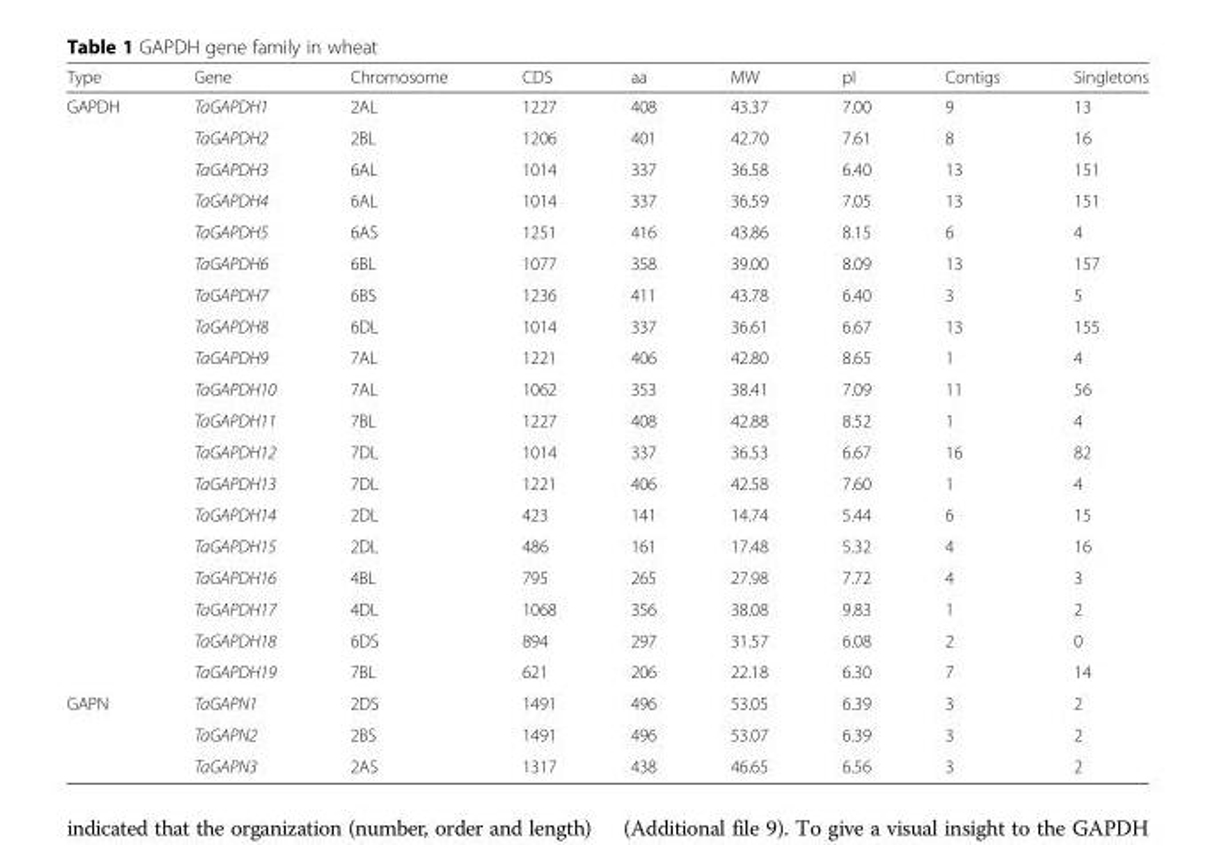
<table><thead><tr><td>Type</td><td>Gene</td><td>Chromosome</td><td>CDS</td><td>aa</td><td>MW</td><td>pI</td><td>Contigs</td><td>Singletons</td></tr></thead><tbody><tr><td rowspan="19">GAPDH</td><td>TaGAPDH1</td><td>2AL</td><td>1227</td><td>408</td><td>43.37</td><td>7.00</td><td>9</td><td>13</td></tr><tr><td>TaGAPDH2</td><td>2BL</td><td>1206</td><td>401</td><td>42.70</td><td>7.61</td><td>8</td><td>16</td></tr><tr><td>TaGAPDH3</td><td>6AL</td><td>1014</td><td>337</td><td>36.58</td><td>6.40</td><td>13</td><td>151</td></tr><tr><td>TaGAPDH4</td><td>6AL</td><td>1014</td><td>337</td><td>36.59</td><td>7.05</td><td>13</td><td>151</td></tr><tr><td>TaGAPDH5</td><td>6AS</td><td>1251</td><td>416</td><td>43.86</td><td>8.15</td><td>6</td><td>4</td></tr><tr><td>TaGAPDH6</td><td>6BL</td><td>1077</td><td>358</td><td>39.00</td><td>8.09</td><td>13</td><td>157</td></tr><tr><td>TaGAPDH7</td><td>6BS</td><td>1236</td><td>411</td><td>43.78</td><td>6.40</td><td>3</td><td>5</td></tr><tr><td>TaGAPDH8</td><td>6DL</td><td>1014</td><td>337</td><td>36.61</td><td>6.67</td><td>13</td><td>155</td></tr><tr><td>TaGAPDH9</td><td>7AL</td><td>1221</td><td>406</td><td>42.80</td><td>8.65</td><td>1</td><td>4</td></tr><tr><td>TaGAPDH10</td><td>7AL</td><td>1062</td><td>353</td><td>38.41</td><td>7.09</td><td>11</td><td>56</td></tr><tr><td>TaGAPDH11</td><td>7BL</td><td>1227</td><td>408</td><td>42.88</td><td>8.52</td><td>1</td><td>4</td></tr><tr><td>TaGAPDH12</td><td>7DL</td><td>1014</td><td>337</td><td>36.53</td><td>6.67</td><td>16</td><td>82</td></tr><tr><td>TaGAPDH13</td><td>7DL</td><td>1221</td><td>406</td><td>42.58</td><td>7.60</td><td>1</td><td>4</td></tr><tr><td>TaGAPDH14</td><td>2DL</td><td>423</td><td>141</td><td>14.74</td><td>5.44</td><td>6</td><td>15</td></tr><tr><td>TaGAPDH15</td><td>2DL</td><td>486</td><td>161</td><td>17.48</td><td>5.32</td><td>4</td><td>16</td></tr><tr><td>TaGAPDH16</td><td>4BL</td><td>795</td><td>265</td><td>27.98</td><td>7.72</td><td>4</td><td>3</td></tr><tr><td>TaGAPDH17</td><td>4DL</td><td>1068</td><td>356</td><td>38.08</td><td>9.83</td><td>1</td><td>2</td></tr><tr><td>TaGAPDH18</td><td>6DS</td><td>894</td><td>297</td><td>31.57</td><td>6.08</td><td>2</td><td>0</td></tr><tr><td>TaGAPDH19</td><td>7BL</td><td>621</td><td>206</td><td>22.18</td><td>6.30</td><td>7</td><td>14</td></tr><tr><td rowspan="3">GAPN</td><td>TaGAPN1</td><td>2DS</td><td>1491</td><td>496</td><td>53.05</td><td>6.39</td><td>3</td><td>2</td></tr><tr><td>TaGAPN2</td><td>2BS</td><td>1491</td><td>496</td><td>53.07</td><td>6.39</td><td>3</td><td>2</td></tr><tr><td>TaGAPN3</td><td>2AS</td><td>1317</td><td>438</td><td>46.65</td><td>6.56</td><td>3</td><td>2</td></tr></tbody></table>